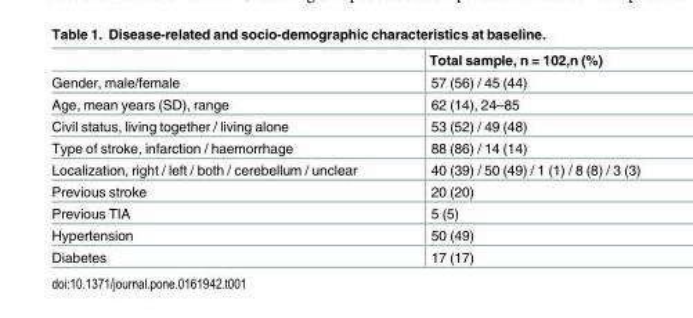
<table><thead><tr><td></td><td>Total sample, n = 102,n (%)</td></tr></thead><tbody><tr><td>Gender, male/female</td><td>57 (56) / 45 (44)</td></tr><tr><td>Age, mean years (SD), range</td><td>62 (14), 24–85</td></tr><tr><td>Civil status, living together / living alone</td><td>53 (52) / 49 (48)</td></tr><tr><td>Type of stroke, infarction / haemorrhage</td><td>88 (86) / 14 (14)</td></tr><tr><td>Localization, right / left / both / cerebellum / unclear</td><td>40 (39) / 50 (49) / 1 (1) / 8 (8) / 3 (3)</td></tr><tr><td>Previous stroke</td><td>20 (20)</td></tr><tr><td>Previous TIA</td><td>5 (5)</td></tr><tr><td>Hypertension</td><td>50 (49)</td></tr><tr><td>Diabetes</td><td>17 (17)</td></tr></tbody></table>